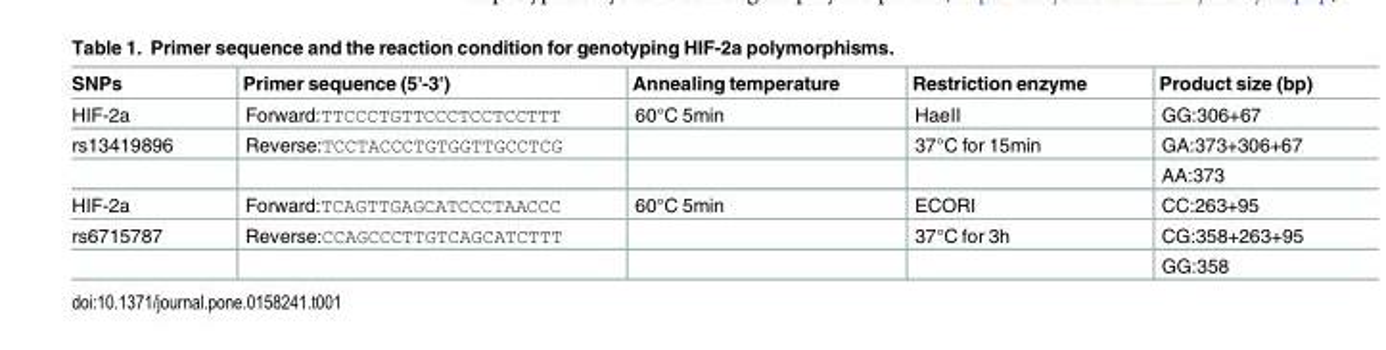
<table><thead><tr><td>SNPs</td><td>Primer sequence (5&#x27;-3&#x27;)</td><td>Annealing temperature</td><td>Restriction enzyme</td><td>Product size (bp)</td></tr></thead><tbody><tr><td>HIF-2a</td><td>Forward:TTCCCTGTTCCCTCCTCCTTT</td><td>60°C 5min</td><td>HaeII</td><td>GG:306+67</td></tr><tr><td rowspan="2">rs13419896</td><td>Reverse:TCCTACCCTGTGGTTGCCTCG</td><td></td><td>37°C for 15min</td><td>GA:373+306+67</td></tr><tr><td></td><td></td><td></td><td>AA:373</td></tr><tr><td>HIF-2a</td><td>Forward:TCAGTTGAGCATCCCTAACCC</td><td>60°C 5min</td><td>ECORI</td><td>CC:263+95</td></tr><tr><td rowspan="2">rs6715787</td><td>Reverse:CCAGCCCTTGTCAGCATCTTT</td><td></td><td>37°C for 3h</td><td>CG:358+263+95</td></tr><tr><td></td><td></td><td></td><td>GG:358</td></tr></tbody></table>